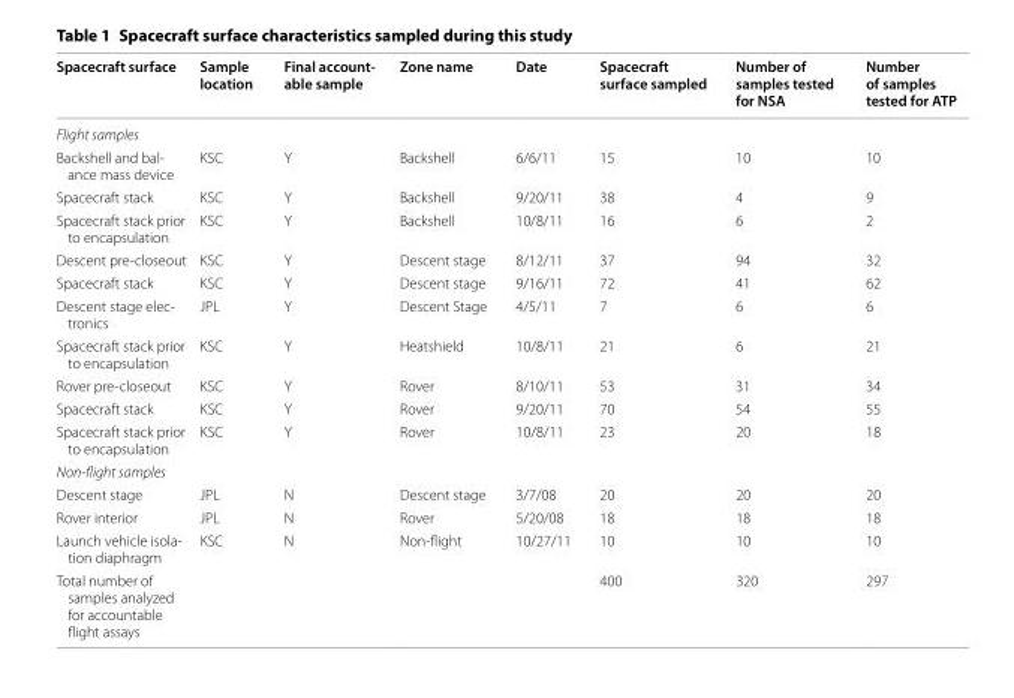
<table><thead><tr><td>Spacecraft surface</td><td>Sample location</td><td>Final account‑ able sample</td><td>Zone name</td><td>Date</td><td>Spacecraft surface sampled</td><td>Number of samples tested for NSA</td><td>Number of samples tested for ATP</td></tr></thead><tbody><tr><td colspan="8">Flight samples</td></tr><tr><td>Backshell and bal- ance mass device</td><td>KSC</td><td>Y</td><td>Backshell</td><td>6/6/11</td><td>15</td><td>10</td><td>10</td></tr><tr><td>Spacecraft stack</td><td>KSC</td><td>Y</td><td>Backshell</td><td>9/20/11</td><td>38</td><td>4</td><td>9</td></tr><tr><td>Spacecraft stack prior to encapsulation</td><td>KSC</td><td>Y</td><td>Backshell</td><td>10/8/11</td><td>16</td><td>6</td><td>2</td></tr><tr><td>Descent pre-closeout</td><td>KSC</td><td>Y</td><td>Descent stage</td><td>8/12/11</td><td>37</td><td>94</td><td>32</td></tr><tr><td>Spacecraft stack</td><td>KSC</td><td>Y</td><td>Descent stage</td><td>9/16/11</td><td>72</td><td>41</td><td>62</td></tr><tr><td>Descent stage elec- tronics</td><td>JPL</td><td>Y</td><td>Descent Stage</td><td>4/5/11</td><td>7</td><td>6</td><td>6</td></tr><tr><td>Spacecraft stack prior to encapsulation</td><td>KSC</td><td>Y</td><td>Heatshield</td><td>10/8/11</td><td>21</td><td>6</td><td>21</td></tr><tr><td>Rover pre-closeout</td><td>KSC</td><td>Y</td><td>Rover</td><td>8/10/11</td><td>53</td><td>31</td><td>34</td></tr><tr><td>Spacecraft stack</td><td>KSC</td><td>Y</td><td>Rover</td><td>9/20/11</td><td>70</td><td>54</td><td>55</td></tr><tr><td>Spacecraft stack prior to encapsulation</td><td>KSC</td><td>Y</td><td>Rover</td><td>10/8/11</td><td>23</td><td>20</td><td>18</td></tr><tr><td colspan="8">Non-flight samples</td></tr><tr><td>Descent stage</td><td>JPL</td><td>N</td><td>Descent stage</td><td>3/7/08</td><td>20</td><td>20</td><td>20</td></tr><tr><td>Rover interior</td><td>JPL</td><td>N</td><td>Rover</td><td>5/20/08</td><td>18</td><td>18</td><td>18</td></tr><tr><td>Launch vehicle isola- tion diaphragm</td><td>KSC</td><td>N</td><td>Non-flight</td><td>10/27/11</td><td>10</td><td>10</td><td>10</td></tr><tr><td>Total number of samples analyzed for accountable flight assays</td><td></td><td></td><td></td><td></td><td>400</td><td>320</td><td>297</td></tr></tbody></table>